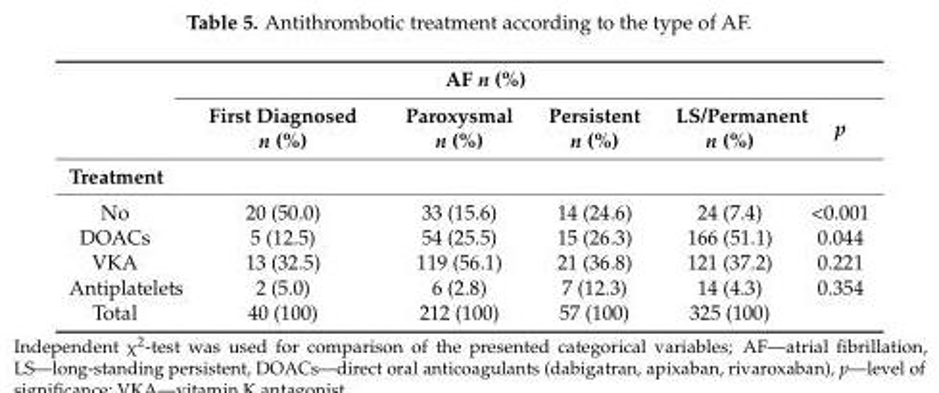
<table><thead><tr><td rowspan="2"></td><td colspan="4">AF n (%)</td><td rowspan="2">p</td></tr><tr><td>First Diagnosed n (%)</td><td>Paroxysmal n (%)</td><td>Persistent n (%)</td><td>LS/Permanent n (%)</td></tr></thead><tbody><tr><td colspan="6">Treatment</td></tr><tr><td>No</td><td>20 (50.0)</td><td>33 (15.6)</td><td>14 (24.6)</td><td>24 (7.4)</td><td>&lt;0.001</td></tr><tr><td>DOACs</td><td>5 (12.5)</td><td>54 (25.5)</td><td>15 (26.3)</td><td>166 (51.1)</td><td>0.044</td></tr><tr><td>VKA</td><td>13 (32.5)</td><td>119 (56.1)</td><td>21 (36.8)</td><td>121 (37.2)</td><td>0.221</td></tr><tr><td>Antiplatelets</td><td>2 (5.0)</td><td>6 (2.8)</td><td>7 (12.3)</td><td>14 (4.3)</td><td>0.354</td></tr><tr><td>Total</td><td>40 (100)</td><td>212 (100)</td><td>57 (100)</td><td>325 (100)</td><td></td></tr></tbody></table>